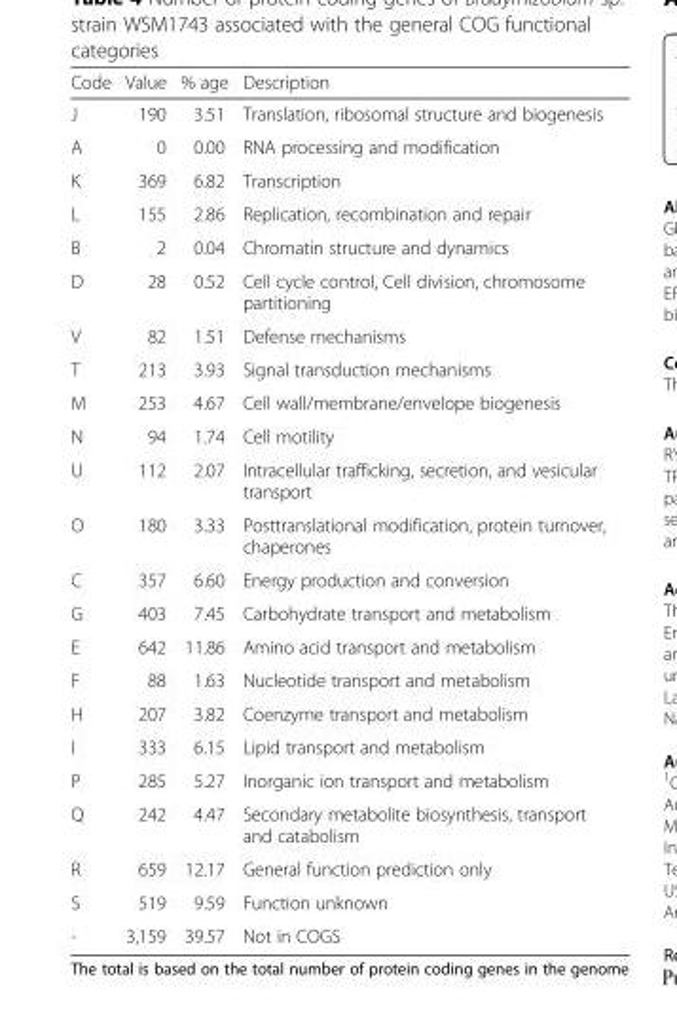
<table><thead><tr><td>Code</td><td>Value</td><td>% age</td><td>Description</td></tr></thead><tbody><tr><td>J</td><td>190</td><td>3.51</td><td>Translation, ribosomal structure and biogenesis</td></tr><tr><td>A</td><td>0</td><td>0.00</td><td>RNA processing and modification</td></tr><tr><td>K</td><td>369</td><td>6.82</td><td>Transcription</td></tr><tr><td>L</td><td>155</td><td>2.86</td><td>Replication, recombination and repair</td></tr><tr><td>B</td><td>2</td><td>0.04</td><td>Chromatin structure and dynamics</td></tr><tr><td>D</td><td>28</td><td>0.52</td><td>Cell cycle control, Cell division, chromosome partitioning</td></tr><tr><td>V</td><td>82</td><td>1.51</td><td>Defense mechanisms</td></tr><tr><td>T</td><td>213</td><td>3.93</td><td>Signal transduction mechanisms</td></tr><tr><td>M</td><td>253</td><td>4.67</td><td>Cell wall/membrane/envelope biogenesis</td></tr><tr><td>N</td><td>94</td><td>1.74</td><td>Cell motility</td></tr><tr><td>U</td><td>112</td><td>2.07</td><td>Intracellular trafficking, secretion, and vesicular transport</td></tr><tr><td>O</td><td>180</td><td>3.33</td><td>Posttranslational modification, protein turnover, chaperones</td></tr><tr><td>C</td><td>357</td><td>6.60</td><td>Energy production and conversion</td></tr><tr><td>G</td><td>403</td><td>7.45</td><td>Carbohydrate transport and metabolism</td></tr><tr><td>E</td><td>642</td><td>11.86</td><td>Amino acid transport and metabolism</td></tr><tr><td>F</td><td>88</td><td>1.63</td><td>Nucleotide transport and metabolism</td></tr><tr><td>H</td><td>207</td><td>3.82</td><td>Coenzyme transport and metabolism</td></tr><tr><td>I</td><td>333</td><td>6.15</td><td>Lipid transport and metabolism</td></tr><tr><td>P</td><td>285</td><td>5.27</td><td>Inorganic ion transport and metabolism</td></tr><tr><td>Q</td><td>242</td><td>4.47</td><td>Secondary metabolite biosynthesis, transport and catabolism</td></tr><tr><td>R</td><td>659</td><td>12.17</td><td>General function prediction only</td></tr><tr><td>S</td><td>519</td><td>9.59</td><td>Function unknown</td></tr><tr><td>-</td><td>3,159</td><td>39.57</td><td>Not in COGS</td></tr></tbody></table>